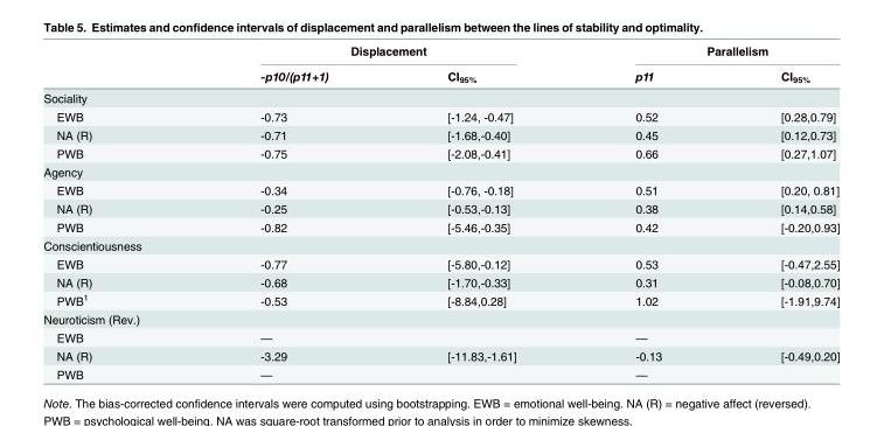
<table><thead><tr><td rowspan="2"></td><td colspan="2">Displacement</td><td colspan="2">Parallelism</td></tr><tr><td>-p10/(p11+1)</td><td>CI<sub>95%</sub></td><td>p11</td><td>CI<sub>95%</sub></td></tr></thead><tbody><tr><td colspan="5">Sociality</td></tr><tr><td>EWB</td><td>-0.73</td><td>[-1.24, -0.47]</td><td>0.52</td><td>[0.28,0.79]</td></tr><tr><td>NA (R)</td><td>-0.71</td><td>[-1.68,-0.40]</td><td>0.45</td><td>[0.12,0.73]</td></tr><tr><td>PWB</td><td>-0.75</td><td>[-2.08,-0.41]</td><td>0.66</td><td>[0.27,1.07]</td></tr><tr><td colspan="5">Agency</td></tr><tr><td>EWB</td><td>-0.34</td><td>[-0.76, -0.18]</td><td>0.51</td><td>[0.20, 0.81]</td></tr><tr><td>NA (R)</td><td>-0.25</td><td>[-0.53,-0.13]</td><td>0.38</td><td>[0.14,0.58]</td></tr><tr><td>PWB</td><td>-0.82</td><td>[-5.46,-0.35]</td><td>0.42</td><td>[-0.20,0.93]</td></tr><tr><td colspan="5">Conscientiousness</td></tr><tr><td>EWB</td><td>-0.77</td><td>[-5.80,-0.12]</td><td>0.53</td><td>[-0.47,2.55]</td></tr><tr><td>NA (R)</td><td>-0.68</td><td>[-1.70,-0.33]</td><td>0.31</td><td>[-0.08,0.70]</td></tr><tr><td>PWB<sup>1</sup></td><td>-0.53</td><td>[-8.84,0.28]</td><td>1.02</td><td>[-1.91,9.74]</td></tr><tr><td colspan="5">Neuroticism (Rev.)</td></tr><tr><td>EWB</td><td>—</td><td></td><td>—</td><td></td></tr><tr><td>NA (R)</td><td>-3.29</td><td>[-11.83,-1.61]</td><td>-0.13</td><td>[-0.49,0.20]</td></tr><tr><td>PWB</td><td>—</td><td></td><td>—</td><td></td></tr></tbody></table>